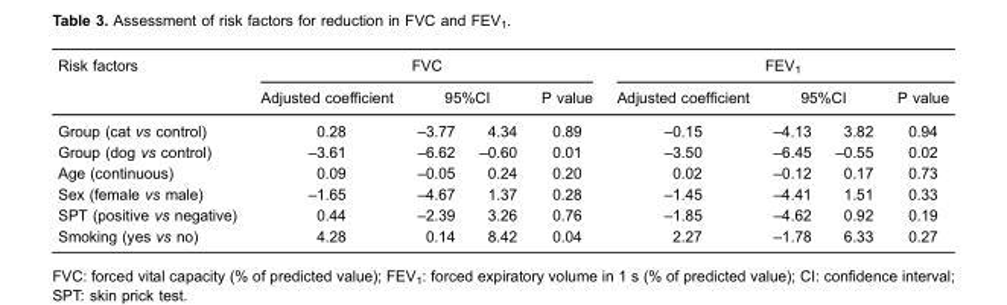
<table><thead><tr><td rowspan="3">Risk factors Group (cat vs control)</td><td colspan="4">FVC</td><td colspan="4">FEV<sub>1</sub></td></tr><tr><td rowspan="2">Adjusted coefficient 0.28</td><td colspan="2">95%CI</td><td rowspan="2">P value 0.89</td><td rowspan="2">Adjusted coefficient –0.15</td><td colspan="2">95%CI</td><td rowspan="2">P value 0.94</td></tr><tr><td>–3.77</td><td>4.34</td><td>–4.13</td><td>3.82</td></tr></thead><tbody><tr><td>Group (dog vs control)</td><td>–3.61</td><td>–6.62</td><td>–0.60</td><td>0.01</td><td>–3.50</td><td>–6.45</td><td>–0.55</td><td>0.02</td></tr><tr><td>Age (continuous)</td><td>0.09</td><td>–0.05</td><td>0.24</td><td>0.20</td><td>0.02</td><td>–0.12</td><td>0.17</td><td>0.73</td></tr><tr><td>Sex (female vs male)</td><td>–1.65</td><td>–4.67</td><td>1.37</td><td>0.28</td><td>–1.45</td><td>–4.41</td><td>1.51</td><td>0.33</td></tr><tr><td>SPT (positive vs negative)</td><td>0.44</td><td>–2.39</td><td>3.26</td><td>0.76</td><td>–1.85</td><td>–4.62</td><td>0.92</td><td>0.19</td></tr><tr><td>Smoking (yes vs no)</td><td>4.28</td><td>0.14</td><td>8.42</td><td>0.04</td><td>2.27</td><td>–1.78</td><td>6.33</td><td>0.27</td></tr></tbody></table>